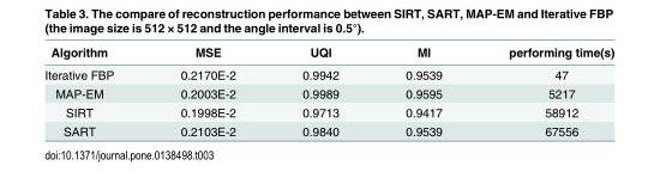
<table><thead><tr><td>Algorithm</td><td>MSE</td><td>UQI</td><td>MI</td><td>performing time(s)</td></tr></thead><tbody><tr><td>Iterative FBP</td><td>0.2170E-2</td><td>0.9942</td><td>0.9539</td><td>47</td></tr><tr><td>MAP-EM</td><td>0.2003E-2</td><td>0.9989</td><td>0.9595</td><td>5217</td></tr><tr><td>SIRT</td><td>0.1998E-2</td><td>0.9713</td><td>0.9417</td><td>58912</td></tr><tr><td>SART</td><td>0.2103E-2</td><td>0.9840</td><td>0.9539</td><td>67556</td></tr></tbody></table>